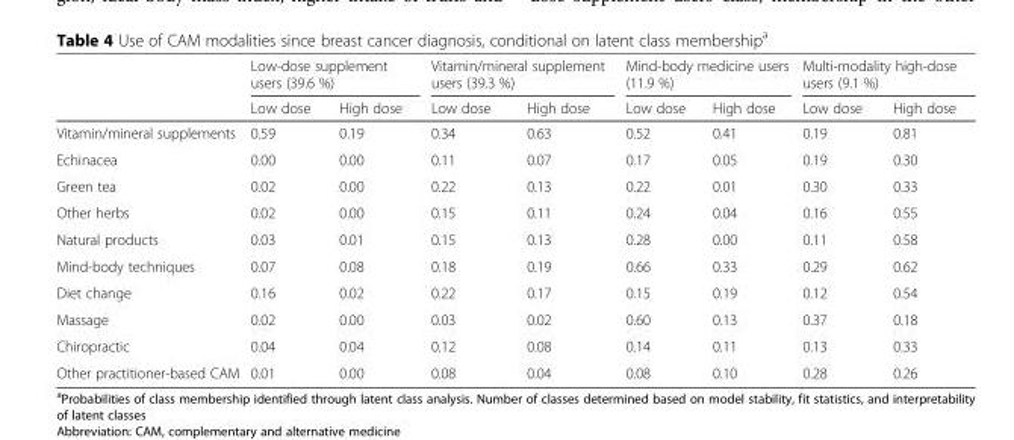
<table><thead><tr><td rowspan="2"></td><td colspan="2">Low-dose supplement users (39.6 %)</td><td colspan="2">Vitamin/mineral supplement users (39.3 %)</td><td colspan="2">Mind-body medicine users (11.9 %)</td><td colspan="2">Multi-modality high-dose users (9.1 %)</td></tr><tr><td>Low dose</td><td>High dose</td><td>Low dose</td><td>High dose</td><td>Low dose</td><td>High dose</td><td>Low dose</td><td>High dose</td></tr></thead><tbody><tr><td>Vitamin/mineral supplements</td><td>0.59</td><td>0.19</td><td>0.34</td><td>0.63</td><td>0.52</td><td>0.41</td><td>0.19</td><td>0.81</td></tr><tr><td>Echinacea</td><td>0.00</td><td>0.00</td><td>0.11</td><td>0.07</td><td>0.17</td><td>0.05</td><td>0.19</td><td>0.30</td></tr><tr><td>Green tea</td><td>0.02</td><td>0.00</td><td>0.22</td><td>0.13</td><td>0.22</td><td>0.01</td><td>0.30</td><td>0.33</td></tr><tr><td>Other herbs</td><td>0.02</td><td>0.00</td><td>0.15</td><td>0.11</td><td>0.24</td><td>0.04</td><td>0.16</td><td>0.55</td></tr><tr><td>Natural products</td><td>0.03</td><td>0.01</td><td>0.15</td><td>0.13</td><td>0.28</td><td>0.00</td><td>0.11</td><td>0.58</td></tr><tr><td>Mind-body techniques</td><td>0.07</td><td>0.08</td><td>0.18</td><td>0.19</td><td>0.66</td><td>0.33</td><td>0.29</td><td>0.62</td></tr><tr><td>Diet change</td><td>0.16</td><td>0.02</td><td>0.22</td><td>0.17</td><td>0.15</td><td>0.19</td><td>0.12</td><td>0.54</td></tr><tr><td>Massage</td><td>0.02</td><td>0.00</td><td>0.03</td><td>0.02</td><td>0.60</td><td>0.13</td><td>0.37</td><td>0.18</td></tr><tr><td>Chiropractic</td><td>0.04</td><td>0.04</td><td>0.12</td><td>0.08</td><td>0.14</td><td>0.11</td><td>0.13</td><td>0.33</td></tr><tr><td>Other practitioner-based CAM</td><td>0.01</td><td>0.00</td><td>0.08</td><td>0.04</td><td>0.08</td><td>0.10</td><td>0.28</td><td>0.26</td></tr></tbody></table>